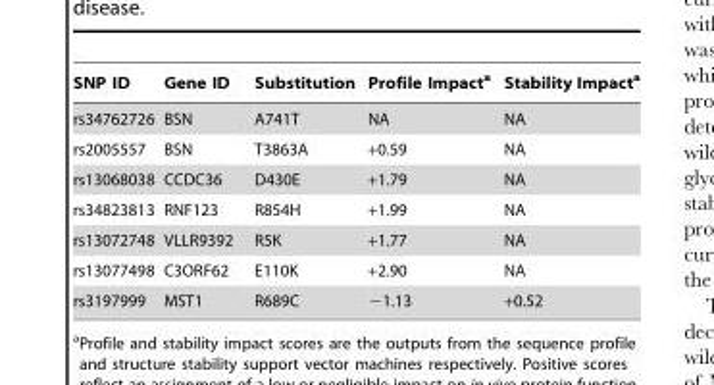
<table><thead><tr><td>SNP ID</td><td>Gene ID</td><td>Substitution</td><td>Profile Impact<sup>a</sup></td><td>Stability Impact<sup>a</sup></td></tr></thead><tbody><tr><td>rs34762726</td><td>BSN</td><td>A741T</td><td>NA</td><td>NA</td></tr><tr><td>rs2005557</td><td>BSN</td><td>T3863A</td><td>+0.59</td><td>NA</td></tr><tr><td>rs13068038</td><td>CCDC36</td><td>D430E</td><td>+1.79</td><td>NA</td></tr><tr><td>rs34823813</td><td>RNF123</td><td>R854H</td><td>+1.99</td><td>NA</td></tr><tr><td>rs13072748</td><td>VLLR9392</td><td>R5K</td><td>+1.77</td><td>NA</td></tr><tr><td>rs13077498</td><td>C3ORF62</td><td>E110K</td><td>+2.90</td><td>NA</td></tr><tr><td>rs3197999</td><td>MST1</td><td>R689C</td><td>−1.13</td><td>+0.52</td></tr></tbody></table>